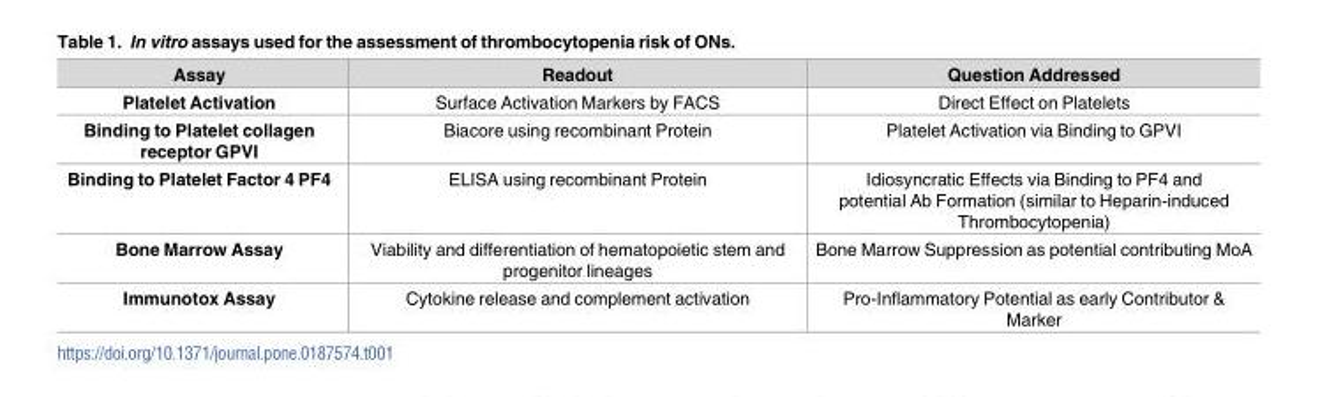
<table><thead><tr><td>Assay</td><td>Readout</td><td>Question Addressed</td></tr></thead><tbody><tr><td>Platelet Activation</td><td>Surface Activation Markers by FACS</td><td>Direct Effect on Platelets</td></tr><tr><td>Binding to Platelet collagen receptor GPVI</td><td>Biacore using recombinant Protein</td><td>Platelet Activation via Binding to GPVI</td></tr><tr><td>Binding to Platelet Factor 4 PF4</td><td>ELISA using recombinant Protein</td><td>Idiosyncratic Effects via Binding to PF4 and potential Ab Formation (similar to Heparin-induced Thrombocytopenia)</td></tr><tr><td>Bone Marrow Assay</td><td>Viability and differentiation of hematopoietic stem and progenitor lineages</td><td>Bone Marrow Suppression as potential contributing MoA</td></tr><tr><td>Immunotox Assay</td><td>Cytokine release and complement activation</td><td>Pro-Inflammatory Potential as early Contributor &amp; Marker</td></tr></tbody></table>